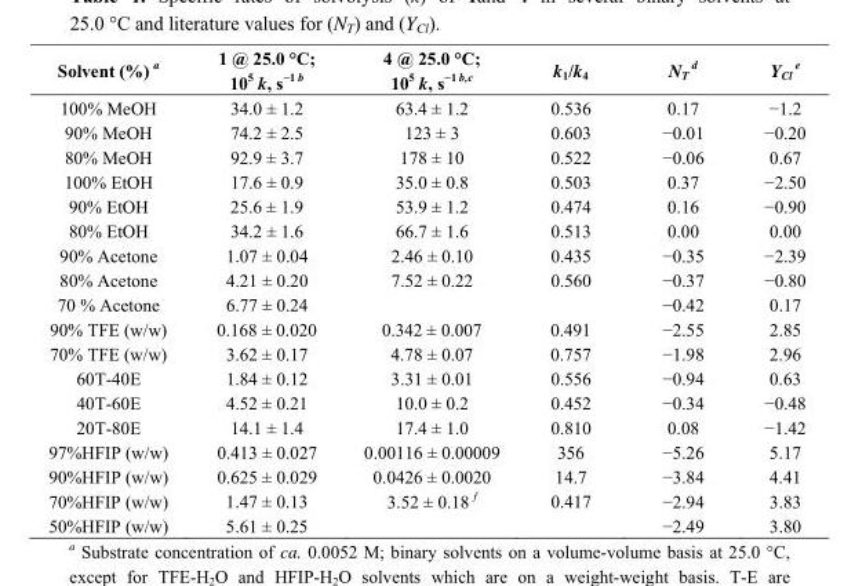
<table><thead><tr><td>Solvent (%) a</td><td>1 @ 25.0 °C; 10<sup>5</sup> k, s<sup>−1 b</sup></td><td>4 @ 25.0 °C; 10<sup>5</sup> k, s<sup>−1 b</sup>,<sup>c</sup></td><td>k<sub>1</sub>/k<sub>4</sub></td><td>N<sub>T</sub> <sup>d</sup></td><td>Y<sub>Cl</sub> <sup>e</sup></td></tr></thead><tbody><tr><td>100% MeOH</td><td>34.0 ± 1.2</td><td>63.4 ± 1.2</td><td>0.536</td><td>0.17</td><td>−1.2</td></tr><tr><td>90% MeOH</td><td>74.2 ± 2.5</td><td>123 ± 3</td><td>0.603</td><td>−0.01</td><td>−0.20</td></tr><tr><td>80% MeOH</td><td>92.9 ± 3.7</td><td>178 ± 10</td><td>0.522</td><td>−0.06</td><td>0.67</td></tr><tr><td>100% EtOH</td><td>17.6 ± 0.9</td><td>35.0 ± 0.8</td><td>0.503</td><td>0.37</td><td>−2.50</td></tr><tr><td>90% EtOH</td><td>25.6 ± 1.9</td><td>53.9 ± 1.2</td><td>0.474</td><td>0.16</td><td>−0.90</td></tr><tr><td>80% EtOH</td><td>34.2 ± 1.6</td><td>66.7 ± 1.6</td><td>0.513</td><td>0.00</td><td>0.00</td></tr><tr><td>90% Acetone</td><td>1.07 ± 0.04</td><td>2.46 ± 0.10</td><td>0.435</td><td>−0.35</td><td>−2.39</td></tr><tr><td>80% Acetone</td><td>4.21 ± 0.20</td><td>7.52 ± 0.22</td><td>0.560</td><td>−0.37</td><td>−0.80</td></tr><tr><td>70 % Acetone</td><td>6.77 ± 0.24</td><td></td><td></td><td>−0.42</td><td>0.17</td></tr><tr><td>90% TFE (w/w)</td><td>0.168 ± 0.020</td><td>0.342 ± 0.007</td><td>0.491</td><td>−2.55</td><td>2.85</td></tr><tr><td>70% TFE (w/w)</td><td>3.62 ± 0.17</td><td>4.78 ± 0.07</td><td>0.757</td><td>−1.98</td><td>2.96</td></tr><tr><td>60T-40E</td><td>1.84 ± 0.12</td><td>3.31 ± 0.01</td><td>0.556</td><td>−0.94</td><td>0.63</td></tr><tr><td>40T-60E</td><td>4.52 ± 0.21</td><td>10.0 ± 0.2</td><td>0.452</td><td>−0.34</td><td>−0.48</td></tr><tr><td>20T-80E</td><td>14.1 ± 1.4</td><td>17.4 ± 1.0</td><td>0.810</td><td>0.08</td><td>−1.42</td></tr><tr><td>97%HFIP (w/w)</td><td>0.413 ± 0.027</td><td>0.00116 ± 0.00009</td><td>356</td><td>−5.26</td><td>5.17</td></tr><tr><td>90%HFIP (w/w)</td><td>0.625 ± 0.029</td><td>0.0426 ± 0.0020</td><td>14.7</td><td>−3.84</td><td>4.41</td></tr><tr><td>70%HFIP (w/w)</td><td>1.47 ± 0.13</td><td>3.52 ± 0.18 f</td><td>0.417</td><td>−2.94</td><td>3.83</td></tr><tr><td>50%HFIP (w/w)</td><td>5.61 ± 0.25</td><td></td><td></td><td>−2.49</td><td>3.80</td></tr></tbody></table>